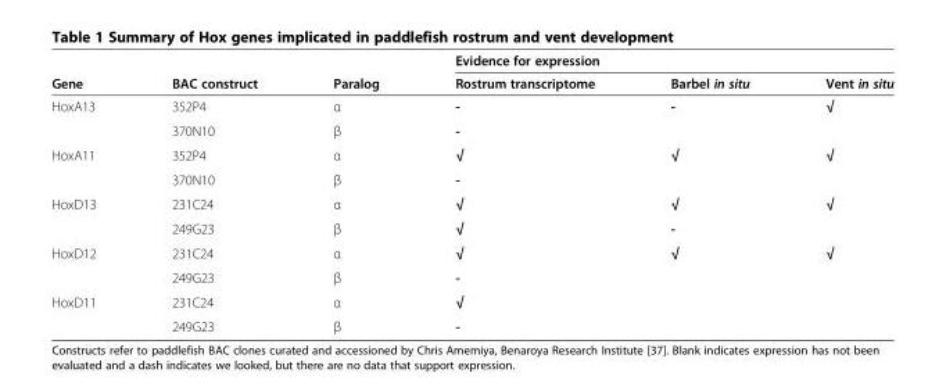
<table><thead><tr><td rowspan="2">Gene</td><td rowspan="2">BAC construct</td><td rowspan="2">Paralog</td><td colspan="3">Evidence for expression</td></tr><tr><td>Rostrum transcriptome</td><td>Barbel in situ</td><td>Vent in situ</td></tr></thead><tbody><tr><td rowspan="2">HoxA13</td><td>352P4</td><td>α</td><td>-</td><td rowspan="2">-</td><td rowspan="2">√</td></tr><tr><td>370N10</td><td>β</td><td>-</td></tr><tr><td rowspan="2">HoxA11</td><td>352P4</td><td>α</td><td>√</td><td rowspan="2">√</td><td rowspan="2">√</td></tr><tr><td>370N10</td><td>β</td><td>-</td></tr><tr><td rowspan="2">HoxD13</td><td>231C24</td><td>α</td><td>√</td><td>√</td><td rowspan="2">√</td></tr><tr><td>249G23</td><td>β</td><td>√</td><td>-</td></tr><tr><td rowspan="2">HoxD12</td><td>231C24</td><td>α</td><td>√</td><td rowspan="2">√</td><td rowspan="2">√</td></tr><tr><td>249G23</td><td>β</td><td>-</td></tr><tr><td rowspan="2">HoxD11</td><td>231C24</td><td>α</td><td>√</td><td></td><td></td></tr><tr><td>249G23</td><td>β</td><td>-</td><td></td><td></td></tr></tbody></table>